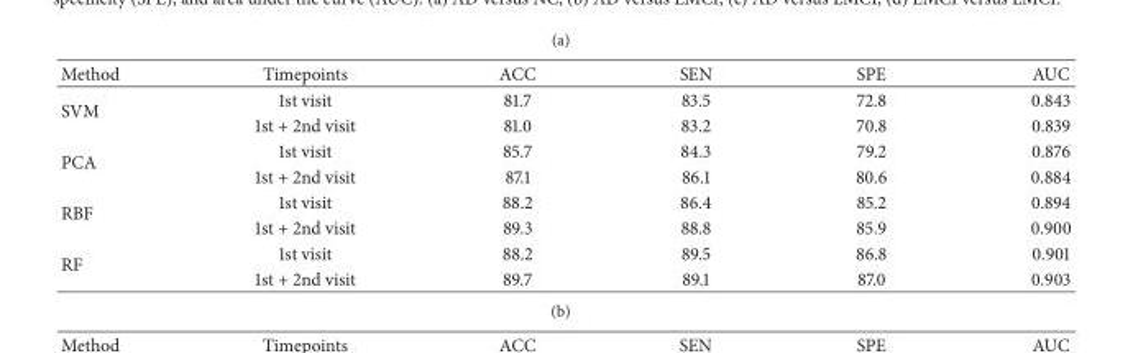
<table><thead><tr><td>Method</td><td>Timepoints</td><td>ACC</td><td>SEN</td><td>SPE</td><td>AUC</td></tr></thead><tbody><tr><td rowspan="2">SVM</td><td>1st visit</td><td>81.7</td><td>83.5</td><td>72.8</td><td>0.843</td></tr><tr><td>1st + 2nd visit</td><td>81.0</td><td>83.2</td><td>70.8</td><td>0.839</td></tr><tr><td rowspan="2">PCA</td><td>1st visit</td><td>85.7</td><td>84.3</td><td>79.2</td><td>0.876</td></tr><tr><td>1st + 2nd visit</td><td>87.1</td><td>86.1</td><td>80.6</td><td>0.884</td></tr><tr><td rowspan="2">RBF</td><td>1st visit</td><td>88.2</td><td>86.4</td><td>85.2</td><td>0.894</td></tr><tr><td>1st + 2nd visit</td><td>89.3</td><td>88.8</td><td>85.9</td><td>0.900</td></tr><tr><td rowspan="2">RF</td><td>1st visit</td><td>88.2</td><td>89.5</td><td>86.8</td><td>0.901</td></tr><tr><td>1st + 2nd visit</td><td>89.7</td><td>89.1</td><td>87.0</td><td>0.903</td></tr></tbody></table>